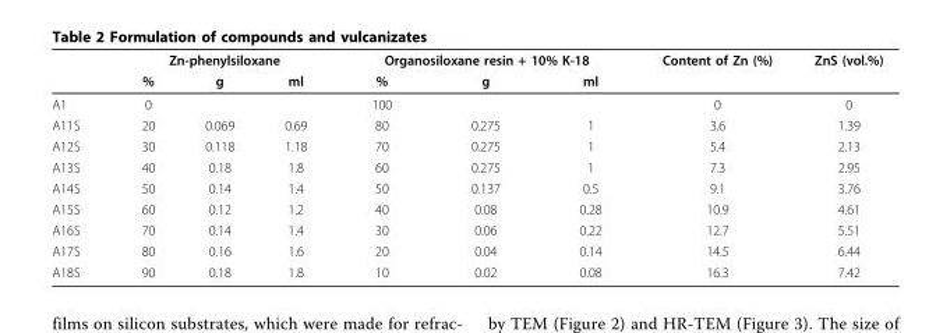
<table><thead><tr><td rowspan="2"></td><td colspan="3">Zn-phenylsiloxane</td><td colspan="3">Organosiloxane resin + 10% K-18</td><td rowspan="2">Content of Zn (%)</td><td rowspan="2">ZnS (vol.%)</td></tr><tr><td>%</td><td>g</td><td>ml</td><td>%</td><td>g</td><td>ml</td></tr></thead><tbody><tr><td>A1</td><td>0</td><td></td><td></td><td>100</td><td></td><td></td><td>0</td><td>0</td></tr><tr><td>A11S</td><td>20</td><td>0.069</td><td>0.69</td><td>80</td><td>0.275</td><td>1</td><td>3.6</td><td>1.39</td></tr><tr><td>A12S</td><td>30</td><td>0.118</td><td>1.18</td><td>70</td><td>0.275</td><td>1</td><td>5.4</td><td>2.13</td></tr><tr><td>A13S</td><td>40</td><td>0.18</td><td>1.8</td><td>60</td><td>0.275</td><td>1</td><td>7.3</td><td>2.95</td></tr><tr><td>A14S</td><td>50</td><td>0.14</td><td>1.4</td><td>50</td><td>0.137</td><td>0.5</td><td>9.1</td><td>3.76</td></tr><tr><td>A15S</td><td>60</td><td>0.12</td><td>1.2</td><td>40</td><td>0.08</td><td>0.28</td><td>10.9</td><td>4.61</td></tr><tr><td>A16S</td><td>70</td><td>0.14</td><td>1.4</td><td>30</td><td>0.06</td><td>0.22</td><td>12.7</td><td>5.51</td></tr><tr><td>A17S</td><td>80</td><td>0.16</td><td>1.6</td><td>20</td><td>0.04</td><td>0.14</td><td>14.5</td><td>6.44</td></tr><tr><td>A18S</td><td>90</td><td>0.18</td><td>1.8</td><td>10</td><td>0.02</td><td>0.08</td><td>16.3</td><td>7.42</td></tr></tbody></table>